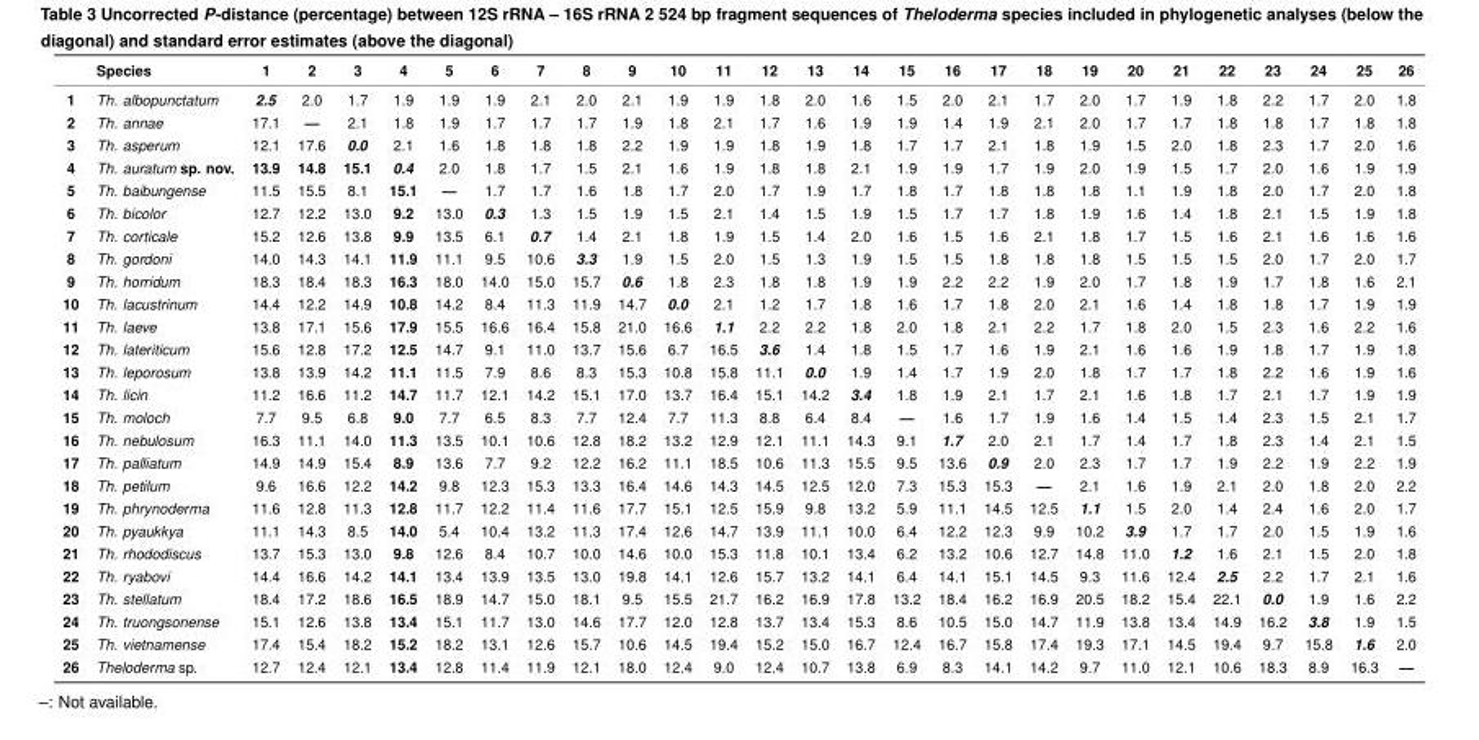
<table><thead><tr><td></td><td>Species</td><td>1</td><td>2</td><td>3</td><td>4</td><td>5</td><td>6</td><td>7</td><td>8</td><td>9</td><td>10</td><td>11</td><td>12</td><td>13</td><td>14</td><td>15</td><td>16</td><td>17</td><td>18</td><td>19</td><td>20</td><td>21</td><td>22</td><td>23</td><td>24</td><td>25</td><td>26</td></tr></thead><tbody><tr><td>1</td><td>Th. albopunctatum</td><td>2.5</td><td>2.0</td><td>1.7</td><td>1.9</td><td>1.9</td><td>1.9</td><td>2.1</td><td>2.0</td><td>2.1</td><td>1.9</td><td>1.9</td><td>1.8</td><td>2.0</td><td>1.6</td><td>1.5</td><td>2.0</td><td>2.1</td><td>1.7</td><td>2.0</td><td>1.7</td><td>1.9</td><td>1.8</td><td>2.2</td><td>1.7</td><td>2.0</td><td>1.8</td></tr><tr><td>2</td><td>Th. annae</td><td>17.1</td><td>—</td><td>2.1</td><td>1.8</td><td>1.9</td><td>1.7</td><td>1.7</td><td>1.7</td><td>1.9</td><td>1.8</td><td>2.1</td><td>1.7</td><td>1.6</td><td>1.9</td><td>1.9</td><td>1.4</td><td>1.9</td><td>2.1</td><td>2.0</td><td>1.7</td><td>1.7</td><td>1.8</td><td>1.8</td><td>1.7</td><td>1.8</td><td>1.8</td></tr><tr><td>3</td><td>Th. asperum</td><td>12.1</td><td>17.6</td><td>0.0</td><td>2.1</td><td>1.6</td><td>1.8</td><td>1.8</td><td>1.8</td><td>2.2</td><td>1.9</td><td>1.9</td><td>1.8</td><td>1.9</td><td>1.8</td><td>1.7</td><td>1.7</td><td>2.1</td><td>1.8</td><td>1.9</td><td>1.5</td><td>2.0</td><td>1.8</td><td>2.3</td><td>1.7</td><td>2.0</td><td>1.6</td></tr><tr><td>4</td><td>Th. auratum sp. nov.</td><td>13.9</td><td>14.8</td><td>15.1</td><td>0.4</td><td>2.0</td><td>1.8</td><td>1.7</td><td>1.5</td><td>2.1</td><td>1.6</td><td>1.9</td><td>1.8</td><td>1.8</td><td>2.1</td><td>1.9</td><td>1.9</td><td>1.7</td><td>1.9</td><td>2.0</td><td>1.9</td><td>1.5</td><td>1.7</td><td>2.0</td><td>1.6</td><td>1.9</td><td>1.9</td></tr><tr><td>5</td><td>Th. baibungense</td><td>11.5</td><td>15.5</td><td>8.1</td><td>15.1</td><td>—</td><td>1.7</td><td>1.7</td><td>1.6</td><td>1.8</td><td>1.7</td><td>2.0</td><td>1.7</td><td>1.9</td><td>1.7</td><td>1.8</td><td>1.7</td><td>1.8</td><td>1.8</td><td>1.8</td><td>1.1</td><td>1.9</td><td>1.8</td><td>2.0</td><td>1.7</td><td>2.0</td><td>1.8</td></tr><tr><td>6</td><td>Th. bicolor</td><td>12.7</td><td>12.2</td><td>13.0</td><td>9.2</td><td>13.0</td><td>0.3</td><td>1.3</td><td>1.5</td><td>1.9</td><td>1.5</td><td>2.1</td><td>1.4</td><td>1.5</td><td>1.9</td><td>1.5</td><td>1.7</td><td>1.7</td><td>1.8</td><td>1.9</td><td>1.6</td><td>1.4</td><td>1.8</td><td>2.1</td><td>1.5</td><td>1.9</td><td>1.8</td></tr><tr><td>7</td><td>Th. corticale</td><td>15.2</td><td>12.6</td><td>13.8</td><td>9.9</td><td>13.5</td><td>6.1</td><td>0.7</td><td>1.4</td><td>2.1</td><td>1.8</td><td>1.9</td><td>1.5</td><td>1.4</td><td>2.0</td><td>1.6</td><td>1.5</td><td>1.6</td><td>2.1</td><td>1.8</td><td>1.7</td><td>1.5</td><td>1.6</td><td>2.1</td><td>1.6</td><td>1.6</td><td>1.6</td></tr><tr><td>8</td><td>Th. gordoni</td><td>14.0</td><td>14.3</td><td>14.1</td><td>11.9</td><td>11.1</td><td>9.5</td><td>10.6</td><td>3.3</td><td>1.9</td><td>1.5</td><td>2.0</td><td>1.5</td><td>1.3</td><td>1.9</td><td>1.5</td><td>1.5</td><td>1.8</td><td>1.8</td><td>1.8</td><td>1.5</td><td>1.5</td><td>1.5</td><td>2.0</td><td>1.7</td><td>2.0</td><td>1.7</td></tr><tr><td>9</td><td>Th. horridum</td><td>18.3</td><td>18.4</td><td>18.3</td><td>16.3</td><td>18.0</td><td>14.0</td><td>15.0</td><td>15.7</td><td>0.6</td><td>1.8</td><td>2.3</td><td>1.8</td><td>1.8</td><td>1.9</td><td>1.9</td><td>2.2</td><td>2.2</td><td>1.9</td><td>2.0</td><td>1.7</td><td>1.8</td><td>1.9</td><td>1.7</td><td>1.8</td><td>1.6</td><td>2.1</td></tr><tr><td>10</td><td>Th. lacustrinum</td><td>14.4</td><td>12.2</td><td>14.9</td><td>10.8</td><td>14.2</td><td>8.4</td><td>11.3</td><td>11.9</td><td>14.7</td><td>0.0</td><td>2.1</td><td>1.2</td><td>1.7</td><td>1.8</td><td>1.6</td><td>1.7</td><td>1.8</td><td>2.0</td><td>2.1</td><td>1.6</td><td>1.4</td><td>1.8</td><td>1.8</td><td>1.7</td><td>1.9</td><td>1.9</td></tr><tr><td>11</td><td>Th. laeve</td><td>13.8</td><td>17.1</td><td>15.6</td><td>17.9</td><td>15.5</td><td>16.6</td><td>16.4</td><td>15.8</td><td>21.0</td><td>16.6</td><td>1.1</td><td>2.2</td><td>2.2</td><td>1.8</td><td>2.0</td><td>1.8</td><td>2.1</td><td>2.2</td><td>1.7</td><td>1.8</td><td>2.0</td><td>1.5</td><td>2.3</td><td>1.6</td><td>2.2</td><td>1.6</td></tr><tr><td>12</td><td>Th. lateriticum</td><td>15.6</td><td>12.8</td><td>17.2</td><td>12.5</td><td>14.7</td><td>9.1</td><td>11.0</td><td>13.7</td><td>15.6</td><td>6.7</td><td>16.5</td><td>3.6</td><td>1.4</td><td>1.8</td><td>1.5</td><td>1.7</td><td>1.6</td><td>1.9</td><td>2.1</td><td>1.6</td><td>1.6</td><td>1.9</td><td>1.8</td><td>1.7</td><td>1.9</td><td>1.8</td></tr><tr><td>13</td><td>Th. leporosum</td><td>13.8</td><td>13.9</td><td>14.2</td><td>11.1</td><td>11.5</td><td>7.9</td><td>8.6</td><td>8.3</td><td>15.3</td><td>10.8</td><td>15.8</td><td>11.1</td><td>0.0</td><td>1.9</td><td>1.4</td><td>1.7</td><td>1.9</td><td>2.0</td><td>1.8</td><td>1.7</td><td>1.7</td><td>1.8</td><td>2.2</td><td>1.6</td><td>1.9</td><td>1.6</td></tr><tr><td>14</td><td>Th. licin</td><td>11.2</td><td>16.6</td><td>11.2</td><td>14.7</td><td>11.7</td><td>12.1</td><td>14.2</td><td>15.1</td><td>17.0</td><td>13.7</td><td>16.4</td><td>15.1</td><td>14.2</td><td>3.4</td><td>1.8</td><td>1.9</td><td>2.1</td><td>1.7</td><td>2.1</td><td>1.6</td><td>1.8</td><td>1.7</td><td>2.1</td><td>1.7</td><td>1.9</td><td>1.9</td></tr><tr><td>15</td><td>Th. moloch</td><td>7.7</td><td>9.5</td><td>6.8</td><td>9.0</td><td>7.7</td><td>6.5</td><td>8.3</td><td>7.7</td><td>12.4</td><td>7.7</td><td>11.3</td><td>8.8</td><td>6.4</td><td>8.4</td><td>—</td><td>1.6</td><td>1.7</td><td>1.9</td><td>1.6</td><td>1.4</td><td>1.5</td><td>1.4</td><td>2.3</td><td>1.5</td><td>2.1</td><td>1.7</td></tr><tr><td>16</td><td>Th. nebulosum</td><td>16.3</td><td>11.1</td><td>14.0</td><td>11.3</td><td>13.5</td><td>10.1</td><td>10.6</td><td>12.8</td><td>18.2</td><td>13.2</td><td>12.9</td><td>12.1</td><td>11.1</td><td>14.3</td><td>9.1</td><td>1.7</td><td>2.0</td><td>2.1</td><td>1.7</td><td>1.4</td><td>1.7</td><td>1.8</td><td>2.3</td><td>1.4</td><td>2.1</td><td>1.5</td></tr><tr><td>17</td><td>Th. palliatum</td><td>14.9</td><td>14.9</td><td>15.4</td><td>8.9</td><td>13.6</td><td>7.7</td><td>9.2</td><td>12.2</td><td>16.2</td><td>11.1</td><td>18.5</td><td>10.6</td><td>11.3</td><td>15.5</td><td>9.5</td><td>13.6</td><td>0.9</td><td>2.0</td><td>2.3</td><td>1.7</td><td>1.7</td><td>1.9</td><td>2.2</td><td>1.9</td><td>2.2</td><td>1.9</td></tr><tr><td>18</td><td>Th. petilum</td><td>9.6</td><td>16.6</td><td>12.2</td><td>14.2</td><td>9.8</td><td>12.3</td><td>15.3</td><td>13.3</td><td>16.4</td><td>14.6</td><td>14.3</td><td>14.5</td><td>12.5</td><td>12.0</td><td>7.3</td><td>15.3</td><td>15.3</td><td>—</td><td>2.1</td><td>1.6</td><td>1.9</td><td>2.1</td><td>2.0</td><td>1.8</td><td>2.0</td><td>2.2</td></tr><tr><td>19</td><td>Th. phrynoderma</td><td>11.6</td><td>12.8</td><td>11.3</td><td>12.8</td><td>11.7</td><td>12.2</td><td>11.4</td><td>11.6</td><td>17.7</td><td>15.1</td><td>12.5</td><td>15.9</td><td>9.8</td><td>13.2</td><td>5.9</td><td>11.1</td><td>14.5</td><td>12.5</td><td>1.1</td><td>1.5</td><td>2.0</td><td>1.4</td><td>2.4</td><td>1.6</td><td>2.0</td><td>1.7</td></tr><tr><td>20</td><td>Th. pyaukkya</td><td>11.1</td><td>14.3</td><td>8.5</td><td>14.0</td><td>5.4</td><td>10.4</td><td>13.2</td><td>11.3</td><td>17.4</td><td>12.6</td><td>14.7</td><td>13.9</td><td>11.1</td><td>10.0</td><td>6.4</td><td>12.2</td><td>12.3</td><td>9.9</td><td>10.2</td><td>3.9</td><td>1.7</td><td>1.7</td><td>2.0</td><td>1.5</td><td>1.9</td><td>1.6</td></tr><tr><td>21</td><td>Th. rhododiscus</td><td>13.7</td><td>15.3</td><td>13.0</td><td>9.8</td><td>12.6</td><td>8.4</td><td>10.7</td><td>10.0</td><td>14.6</td><td>10.0</td><td>15.3</td><td>11.8</td><td>10.1</td><td>13.4</td><td>6.2</td><td>13.2</td><td>10.6</td><td>12.7</td><td>14.8</td><td>11.0</td><td>1.2</td><td>1.6</td><td>2.1</td><td>1.5</td><td>2.0</td><td>1.8</td></tr><tr><td>22</td><td>Th. ryabovi</td><td>14.4</td><td>16.6</td><td>14.2</td><td>14.1</td><td>13.4</td><td>13.9</td><td>13.5</td><td>13.0</td><td>19.8</td><td>14.1</td><td>12.6</td><td>15.7</td><td>13.2</td><td>14.1</td><td>6.4</td><td>14.1</td><td>15.1</td><td>14.5</td><td>9.3</td><td>11.6</td><td>12.4</td><td>2.5</td><td>2.2</td><td>1.7</td><td>2.1</td><td>1.6</td></tr><tr><td>23</td><td>Th. stellatum</td><td>18.4</td><td>17.2</td><td>18.6</td><td>16.5</td><td>18.9</td><td>14.7</td><td>15.0</td><td>18.1</td><td>9.5</td><td>15.5</td><td>21.7</td><td>16.2</td><td>16.9</td><td>17.8</td><td>13.2</td><td>18.4</td><td>16.2</td><td>16.9</td><td>20.5</td><td>18.2</td><td>15.4</td><td>22.1</td><td>0.0</td><td>1.9</td><td>1.6</td><td>2.2</td></tr><tr><td>24</td><td>Th. truongsonense</td><td>15.1</td><td>12.6</td><td>13.8</td><td>13.4</td><td>15.1</td><td>11.7</td><td>13.0</td><td>14.6</td><td>17.7</td><td>12.0</td><td>12.8</td><td>13.7</td><td>13.4</td><td>15.3</td><td>8.6</td><td>10.5</td><td>15.0</td><td>14.7</td><td>11.9</td><td>13.8</td><td>13.4</td><td>14.9</td><td>16.2</td><td>3.8</td><td>1.9</td><td>1.5</td></tr><tr><td>25</td><td>Th. vietnamense</td><td>17.4</td><td>15.4</td><td>18.2</td><td>15.2</td><td>18.2</td><td>13.1</td><td>12.6</td><td>15.7</td><td>10.6</td><td>14.5</td><td>19.4</td><td>15.2</td><td>15.0</td><td>16.7</td><td>12.4</td><td>16.7</td><td>15.8</td><td>17.4</td><td>19.3</td><td>17.1</td><td>14.5</td><td>19.4</td><td>9.7</td><td>15.8</td><td>1.6</td><td>2.0</td></tr><tr><td>26</td><td>Theloderma sp.</td><td>12.7</td><td>12.4</td><td>12.1</td><td>13.4</td><td>12.8</td><td>11.4</td><td>11.9</td><td>12.1</td><td>18.0</td><td>12.4</td><td>9.0</td><td>12.4</td><td>10.7</td><td>13.8</td><td>6.9</td><td>8.3</td><td>14.1</td><td>14.2</td><td>9.7</td><td>11.0</td><td>12.1</td><td>10.6</td><td>18.3</td><td>8.9</td><td>16.3</td><td>—</td></tr></tbody></table>